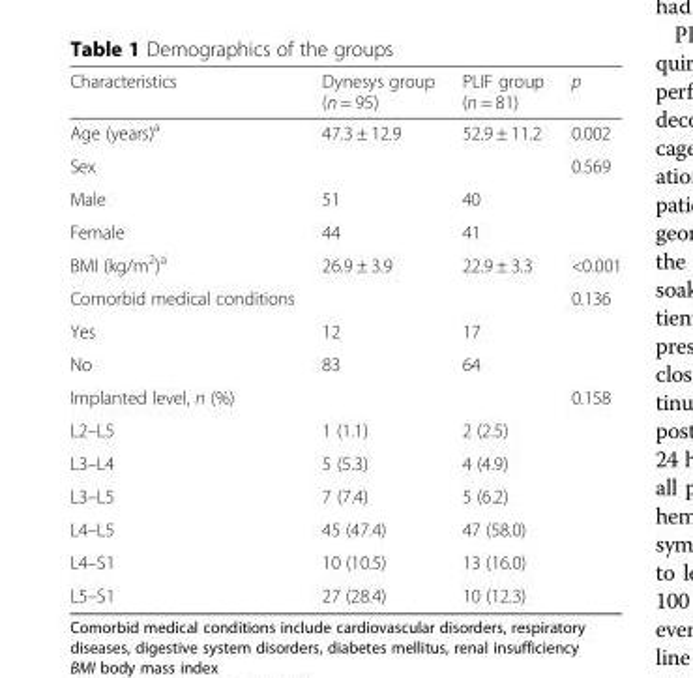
<table><thead><tr><td>Characteristics</td><td>Dynesys group (n = 95)</td><td>PLIF group (n = 81)</td><td>p</td></tr></thead><tbody><tr><td>Age (years)<sup>a</sup></td><td>47.3 ± 12.9</td><td>52.9 ± 11.2</td><td>0.002</td></tr><tr><td>Sex</td><td></td><td></td><td>0.569</td></tr><tr><td>Male</td><td>51</td><td>40</td><td></td></tr><tr><td>Female</td><td>44</td><td>41</td><td></td></tr><tr><td>BMI (kg/m<sup>2</sup>)<sup>a</sup></td><td>26.9 ± 3.9</td><td>22.9 ± 3.3</td><td>&lt;0.001</td></tr><tr><td>Comorbid medical conditions</td><td></td><td></td><td>0.136</td></tr><tr><td>Yes</td><td>12</td><td>17</td><td></td></tr><tr><td>No</td><td>83</td><td>64</td><td></td></tr><tr><td>Implanted level, n (%)</td><td></td><td></td><td>0.158</td></tr><tr><td>L2–L5</td><td>1 (1.1)</td><td>2 (2.5)</td><td></td></tr><tr><td>L3–L4</td><td>5 (5.3)</td><td>4 (4.9)</td><td></td></tr><tr><td>L3–L5</td><td>7 (7.4)</td><td>5 (6.2)</td><td></td></tr><tr><td>L4–L5</td><td>45 (47.4)</td><td>47 (58.0)</td><td></td></tr><tr><td>L4–S1</td><td>10 (10.5)</td><td>13 (16.0)</td><td></td></tr><tr><td>L5–S1</td><td>27 (28.4)</td><td>10 (12.3)</td><td></td></tr></tbody></table>